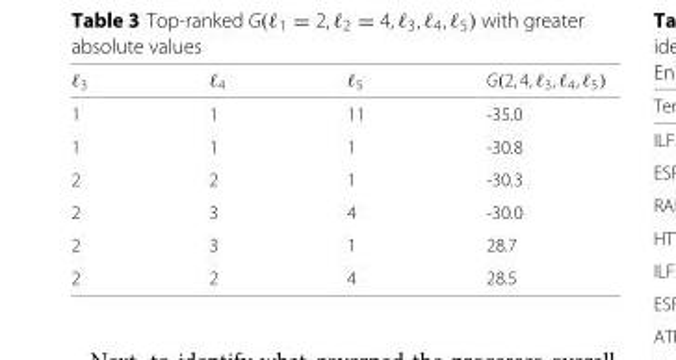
<table><thead><tr><td>ℓ<sub>3</sub></td><td>ℓ<sub>4</sub></td><td>ℓ<sub>5</sub></td><td>G(2, 4, ℓ<sub>3</sub>, ℓ<sub>4</sub>, ℓ<sub>5</sub>)</td></tr></thead><tbody><tr><td>1</td><td>1</td><td>11</td><td>-35.0</td></tr><tr><td>1</td><td>1</td><td>1</td><td>-30.8</td></tr><tr><td>2</td><td>2</td><td>1</td><td>-30.3</td></tr><tr><td>2</td><td>3</td><td>4</td><td>-30.0</td></tr><tr><td>2</td><td>3</td><td>1</td><td>28.7</td></tr><tr><td>2</td><td>2</td><td>4</td><td>28.5</td></tr></tbody></table>